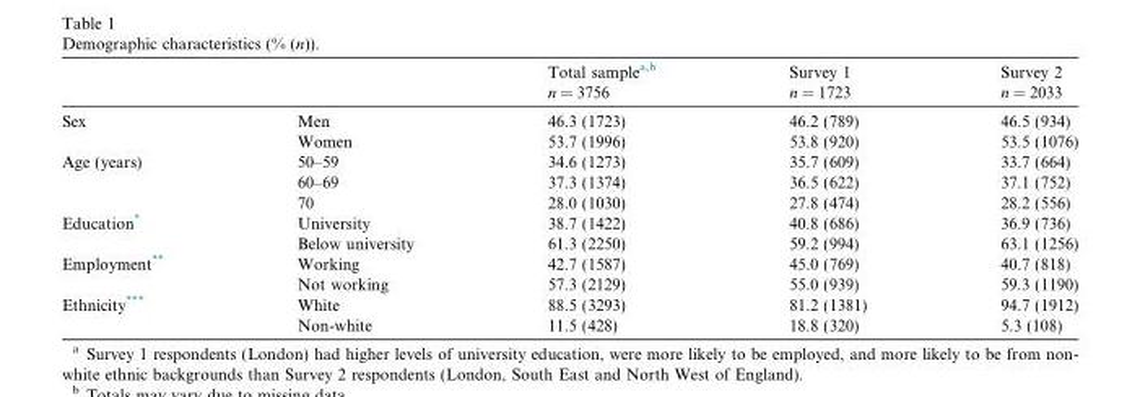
<table><thead><tr><td></td><td></td><td>Total samplea,b n = 3756</td><td>Survey 1 n = 1723</td><td>Survey 2 n = 2033</td></tr></thead><tbody><tr><td rowspan="2">Sex</td><td>Men</td><td>46.3 (1723)</td><td>46.2 (789)</td><td>46.5 (934)</td></tr><tr><td>Women</td><td>53.7 (1996)</td><td>53.8 (920)</td><td>53.5 (1076)</td></tr><tr><td rowspan="3">Age (years)</td><td>50–59</td><td>34.6 (1273)</td><td>35.7 (609)</td><td>33.7 (664)</td></tr><tr><td>60–69</td><td>37.3 (1374)</td><td>36.5 (622)</td><td>37.1 (752)</td></tr><tr><td>70</td><td>28.0 (1030)</td><td>27.8 (474)</td><td>28.2 (556)</td></tr><tr><td rowspan="2">Education*</td><td>University</td><td>38.7 (1422)</td><td>40.8 (686)</td><td>36.9 (736)</td></tr><tr><td>Below university</td><td>61.3 (2250)</td><td>59.2 (994)</td><td>63.1 (1256)</td></tr><tr><td rowspan="2">Employment**</td><td>Working</td><td>42.7 (1587)</td><td>45.0 (769)</td><td>40.7 (818)</td></tr><tr><td>Not working</td><td>57.3 (2129)</td><td>55.0 (939)</td><td>59.3 (1190)</td></tr><tr><td rowspan="2">Ethnicity***</td><td>White</td><td>88.5 (3293)</td><td>81.2 (1381)</td><td>94.7 (1912)</td></tr><tr><td>Non-white</td><td>11.5 (428)</td><td>18.8 (320)</td><td>5.3 (108)</td></tr></tbody></table>